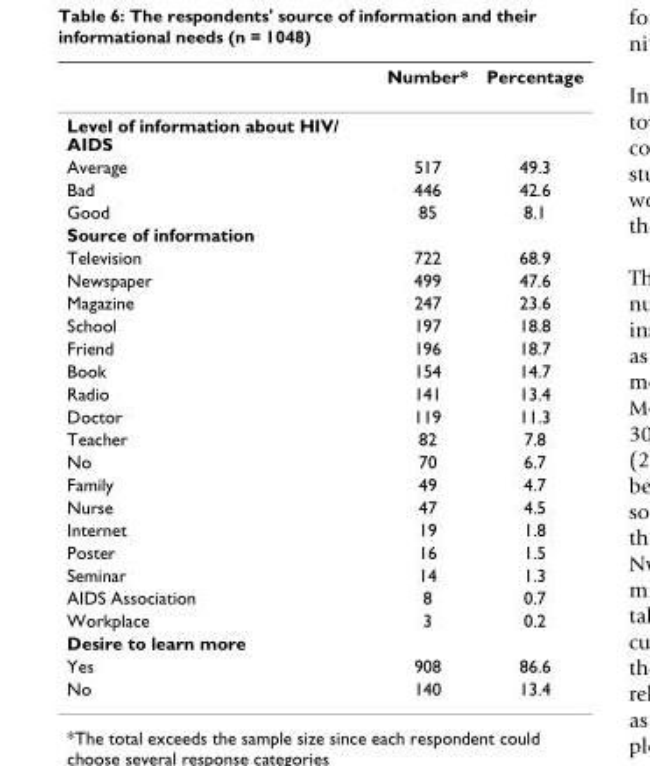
<table><thead><tr><td></td><td>Number*</td><td>Percentage</td></tr></thead><tbody><tr><td colspan="3">Level of information about HIV/ AIDS</td></tr><tr><td>Average</td><td>517</td><td>49.3</td></tr><tr><td>Bad</td><td>446</td><td>42.6</td></tr><tr><td>Good</td><td>85</td><td>8.1</td></tr><tr><td colspan="3">Source of information</td></tr><tr><td>Television</td><td>722</td><td>68.9</td></tr><tr><td>Newspaper</td><td>499</td><td>47.6</td></tr><tr><td>Magazine</td><td>247</td><td>23.6</td></tr><tr><td>School</td><td>197</td><td>18.8</td></tr><tr><td>Friend</td><td>196</td><td>18.7</td></tr><tr><td>Book</td><td>154</td><td>14.7</td></tr><tr><td>Radio</td><td>141</td><td>13.4</td></tr><tr><td>Doctor</td><td>119</td><td>11.3</td></tr><tr><td>Teacher</td><td>82</td><td>7.8</td></tr><tr><td>No</td><td>70</td><td>6.7</td></tr><tr><td>Family</td><td>49</td><td>4.7</td></tr><tr><td>Nurse</td><td>47</td><td>4.5</td></tr><tr><td>Internet</td><td>19</td><td>1.8</td></tr><tr><td>Poster</td><td>16</td><td>1.5</td></tr><tr><td>Seminar</td><td>14</td><td>1.3</td></tr><tr><td>AIDS Association</td><td>8</td><td>0.7</td></tr><tr><td>Workplace</td><td>3</td><td>0.2</td></tr><tr><td colspan="3">Desire to learn more</td></tr><tr><td>Yes</td><td>908</td><td>86.6</td></tr><tr><td>No</td><td>140</td><td>13.4</td></tr></tbody></table>